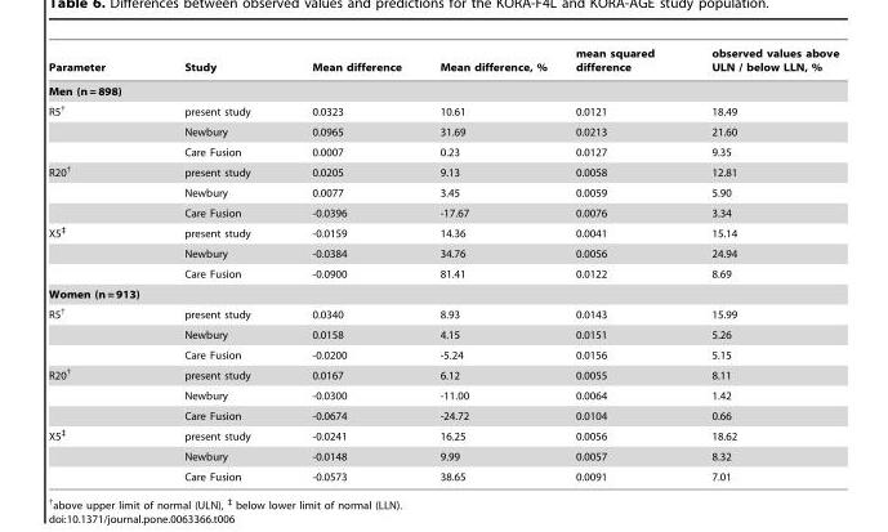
<table><thead><tr><td>Parameter</td><td>Study</td><td>Mean difference</td><td>Mean difference, %</td><td>mean squared difference</td><td>observed values above ULN / below LLN, %</td></tr></thead><tbody><tr><td colspan="6">Men (n = 898)</td></tr><tr><td rowspan="3">R5†</td><td>present study</td><td>0.0323</td><td>10.61</td><td>0.0121</td><td>18.49</td></tr><tr><td>Newbury</td><td>0.0965</td><td>31.69</td><td>0.0213</td><td>21.60</td></tr><tr><td>Care Fusion</td><td>0.0007</td><td>0.23</td><td>0.0127</td><td>9.35</td></tr><tr><td rowspan="3">R20†</td><td>present study</td><td>0.0205</td><td>9.13</td><td>0.0058</td><td>12.81</td></tr><tr><td>Newbury</td><td>0.0077</td><td>3.45</td><td>0.0059</td><td>5.90</td></tr><tr><td>Care Fusion</td><td>-0.0396</td><td>-17.67</td><td>0.0076</td><td>3.34</td></tr><tr><td rowspan="3">X5<sup>‡</sup></td><td>present study</td><td>-0.0159</td><td>14.36</td><td>0.0041</td><td>15.14</td></tr><tr><td>Newbury</td><td>-0.0384</td><td>34.76</td><td>0.0056</td><td>24.94</td></tr><tr><td>Care Fusion</td><td>-0.0900</td><td>81.41</td><td>0.0122</td><td>8.69</td></tr><tr><td colspan="6">Women (n = 913)</td></tr><tr><td rowspan="3">R5†</td><td>present study</td><td>0.0340</td><td>8.93</td><td>0.0143</td><td>15.99</td></tr><tr><td>Newbury</td><td>0.0158</td><td>4.15</td><td>0.0151</td><td>5.26</td></tr><tr><td>Care Fusion</td><td>-0.0200</td><td>-5.24</td><td>0.0156</td><td>5.15</td></tr><tr><td rowspan="3">R20†</td><td>present study</td><td>0.0167</td><td>6.12</td><td>0.0055</td><td>8.11</td></tr><tr><td>Newbury</td><td>-0.0300</td><td>-11.00</td><td>0.0064</td><td>1.42</td></tr><tr><td>Care Fusion</td><td>-0.0674</td><td>-24.72</td><td>0.0104</td><td>0.66</td></tr><tr><td rowspan="3">X5<sup>‡</sup></td><td>present study</td><td>-0.0241</td><td>16.25</td><td>0.0056</td><td>18.62</td></tr><tr><td>Newbury</td><td>-0.0148</td><td>9.99</td><td>0.0057</td><td>8.32</td></tr><tr><td>Care Fusion</td><td>-0.0573</td><td>38.65</td><td>0.0091</td><td>7.01</td></tr></tbody></table>